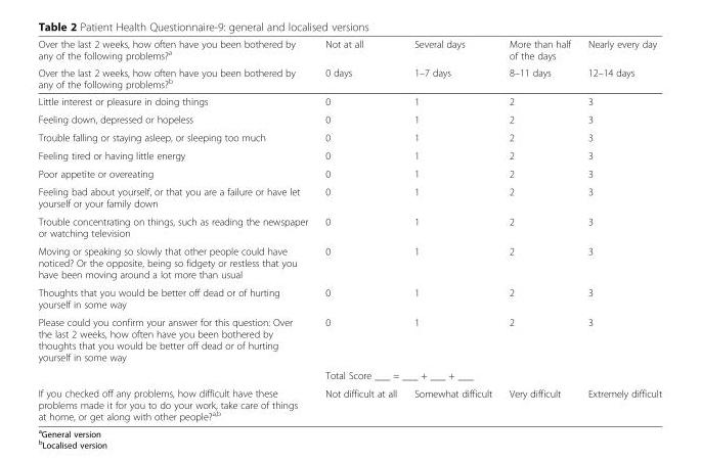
<table><thead><tr><td rowspan="2">Over the last 2 weeks, how often have you been bothered by any of the following problems?<sup>a</sup> Over the last 2 weeks, how often have you been bothered by any of the following problems?<sup>b</sup></td><td rowspan="2">Not at all 0 days</td><td rowspan="2">Several days 1–7 days</td><td rowspan="2">More than half of the days 8–11 days</td><td rowspan="2">Nearly every day 12–14 days</td></tr><tr></tr></thead><tbody><tr><td>Little interest or pleasure in doing things</td><td>0</td><td>1</td><td>2</td><td>3</td></tr><tr><td>Feeling down, depressed or hopeless</td><td>0</td><td>1</td><td>2</td><td>3</td></tr><tr><td>Trouble falling or staying asleep, or sleeping too much</td><td>0</td><td>1</td><td>2</td><td>3</td></tr><tr><td>Feeling tired or having little energy</td><td>0</td><td>1</td><td>2</td><td>3</td></tr><tr><td>Poor appetite or overeating</td><td>0</td><td>1</td><td>2</td><td>3</td></tr><tr><td>Feeling bad about yourself, or that you are a failure or have let yourself or your family down</td><td>0</td><td>1</td><td>2</td><td>3</td></tr><tr><td>Trouble concentrating on things, such as reading the newspaper or watching television</td><td>0</td><td>1</td><td>2</td><td>3</td></tr><tr><td>Moving or speaking so slowly that other people could have noticed? Or the opposite, being so fidgety or restless that you have been moving around a lot more than usual</td><td>0</td><td>1</td><td>2</td><td>3</td></tr><tr><td>Thoughts that you would be better off dead or of hurting yourself in some way</td><td>0</td><td>1</td><td>2</td><td>3</td></tr><tr><td rowspan="2">Please could you confirm your answer for this question: Over the last 2 weeks, how often have you been bothered by thoughts that you would be better off dead or of hurting yourself in some way</td><td>0</td><td>1</td><td>2</td><td>3</td></tr><tr><td colspan="4">Total Score ___ = ___ + ___ + ___</td></tr><tr><td>If you checked off any problems, how difficult have these problems made it for you to do your work, take care of things at home, or get along with other people?<sup>a,b</sup></td><td>Not difficult at all</td><td>Somewhat difficult</td><td>Very difficult</td><td>Extremely difficult</td></tr></tbody></table>